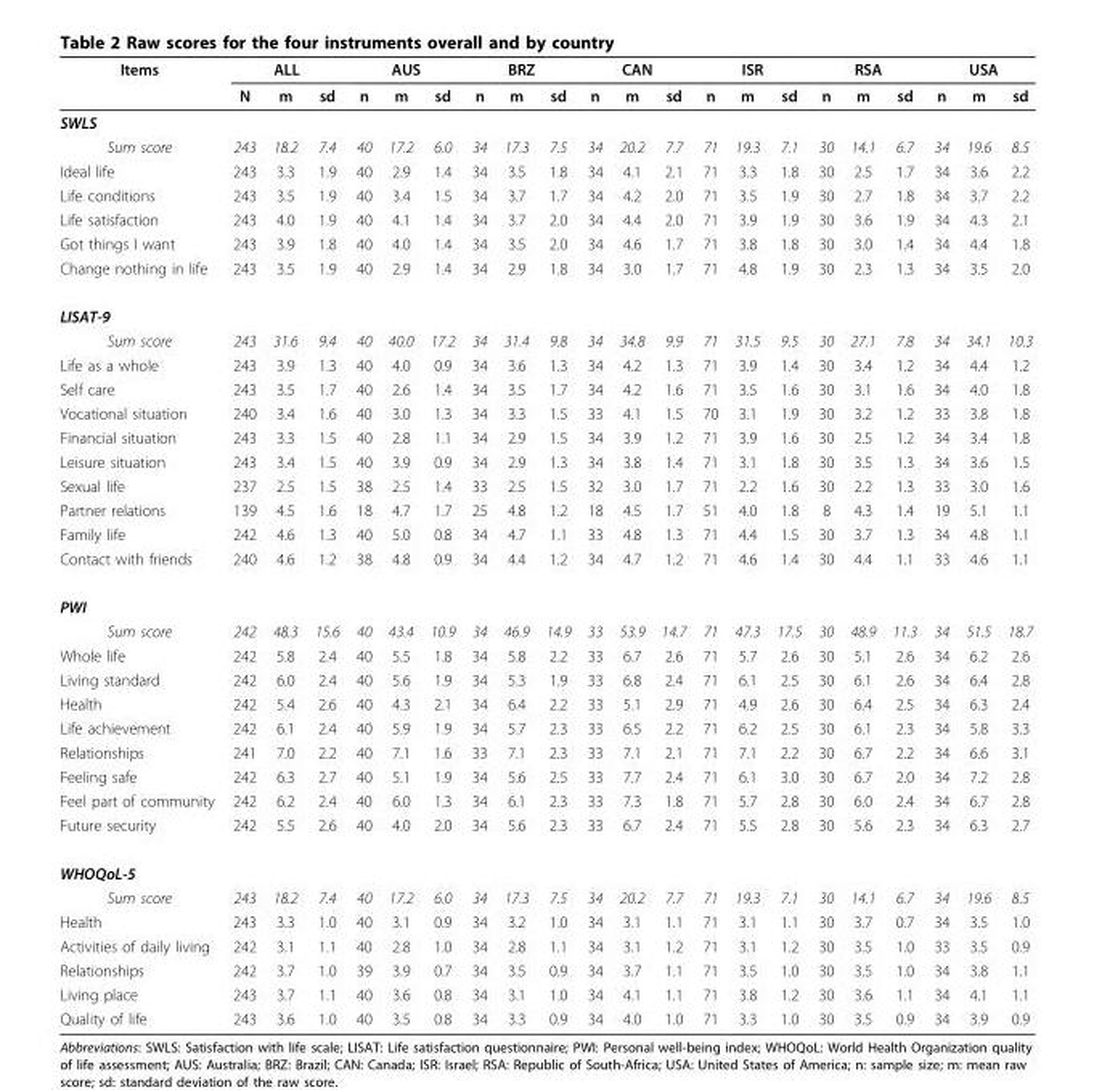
<table><thead><tr><td rowspan="2">Items</td><td colspan="3">ALL</td><td colspan="3">AUS</td><td colspan="3">BRZ</td><td colspan="3">CAN</td><td colspan="3">ISR</td><td colspan="3">RSA</td><td colspan="3">USA</td></tr><tr><td>N</td><td>m</td><td>sd</td><td>n</td><td>m</td><td>sd</td><td>n</td><td>m</td><td>sd</td><td>n</td><td>m</td><td>sd</td><td>n</td><td>m</td><td>sd</td><td>n</td><td>m</td><td>sd</td><td>n</td><td>m</td><td>sd</td></tr></thead><tbody><tr><td colspan="22">SWLS</td></tr><tr><td>Sum score</td><td>243</td><td>18.2</td><td>7.4</td><td>40</td><td>17.2</td><td>6.0</td><td>34</td><td>17.3</td><td>7.5</td><td>34</td><td>20.2</td><td>7.7</td><td>71</td><td>19.3</td><td>7.1</td><td>30</td><td>14.1</td><td>6.7</td><td>34</td><td>19.6</td><td>8.5</td></tr><tr><td>Ideal life</td><td>243</td><td>3.3</td><td>1.9</td><td>40</td><td>2.9</td><td>1.4</td><td>34</td><td>3.5</td><td>1.8</td><td>34</td><td>4.1</td><td>2.1</td><td>71</td><td>3.3</td><td>1.8</td><td>30</td><td>2.5</td><td>1.7</td><td>34</td><td>3.6</td><td>2.2</td></tr><tr><td>Life conditions</td><td>243</td><td>3.5</td><td>1.9</td><td>40</td><td>3.4</td><td>1.5</td><td>34</td><td>3.7</td><td>1.7</td><td>34</td><td>4.2</td><td>2.0</td><td>71</td><td>3.5</td><td>1.9</td><td>30</td><td>2.7</td><td>1.8</td><td>34</td><td>3.7</td><td>2.2</td></tr><tr><td>Life satisfaction</td><td>243</td><td>4.0</td><td>1.9</td><td>40</td><td>4.1</td><td>1.4</td><td>34</td><td>3.7</td><td>2.0</td><td>34</td><td>4.4</td><td>2.0</td><td>71</td><td>3.9</td><td>1.9</td><td>30</td><td>3.6</td><td>1.9</td><td>34</td><td>4.3</td><td>2.1</td></tr><tr><td>Got things I want</td><td>243</td><td>3.9</td><td>1.8</td><td>40</td><td>4.0</td><td>1.4</td><td>34</td><td>3.5</td><td>2.0</td><td>34</td><td>4.6</td><td>1.7</td><td>71</td><td>3.8</td><td>1.8</td><td>30</td><td>3.0</td><td>1.4</td><td>34</td><td>4.4</td><td>1.8</td></tr><tr><td>Change nothing in life</td><td>243</td><td>3.5</td><td>1.9</td><td>40</td><td>2.9</td><td>1.4</td><td>34</td><td>2.9</td><td>1.8</td><td>34</td><td>3.0</td><td>1.7</td><td>71</td><td>4.8</td><td>1.9</td><td>30</td><td>2.3</td><td>1.3</td><td>34</td><td>3.5</td><td>2.0</td></tr><tr><td colspan="22">LISAT-9</td></tr><tr><td>Sum score</td><td>243</td><td>31.6</td><td>9.4</td><td>40</td><td>40.0</td><td>17.2</td><td>34</td><td>31.4</td><td>9.8</td><td>34</td><td>34.8</td><td>9.9</td><td>71</td><td>31.5</td><td>9.5</td><td>30</td><td>27.1</td><td>7.8</td><td>34</td><td>34.1</td><td>10.3</td></tr><tr><td>Life as a whole</td><td>243</td><td>3.9</td><td>1.3</td><td>40</td><td>4.0</td><td>0.9</td><td>34</td><td>3.6</td><td>1.3</td><td>34</td><td>4.2</td><td>1.3</td><td>71</td><td>3.9</td><td>1.4</td><td>30</td><td>3.4</td><td>1.2</td><td>34</td><td>4.4</td><td>1.2</td></tr><tr><td>Self care</td><td>243</td><td>3.5</td><td>1.7</td><td>40</td><td>2.6</td><td>1.4</td><td>34</td><td>3.5</td><td>1.7</td><td>34</td><td>4.2</td><td>1.6</td><td>71</td><td>3.5</td><td>1.6</td><td>30</td><td>3.1</td><td>1.6</td><td>34</td><td>4.0</td><td>1.8</td></tr><tr><td>Vocational situation</td><td>240</td><td>3.4</td><td>1.6</td><td>40</td><td>3.0</td><td>1.3</td><td>34</td><td>3.3</td><td>1.5</td><td>33</td><td>4.1</td><td>1.5</td><td>70</td><td>3.1</td><td>1.9</td><td>30</td><td>3.2</td><td>1.2</td><td>33</td><td>3.8</td><td>1.8</td></tr><tr><td>Financial situation</td><td>243</td><td>3.3</td><td>1.5</td><td>40</td><td>2.8</td><td>1.1</td><td>34</td><td>2.9</td><td>1.5</td><td>34</td><td>3.9</td><td>1.2</td><td>71</td><td>3.9</td><td>1.6</td><td>30</td><td>2.5</td><td>1.2</td><td>34</td><td>3.4</td><td>1.8</td></tr><tr><td>Leisure situation</td><td>243</td><td>3.4</td><td>1.5</td><td>40</td><td>3.9</td><td>0.9</td><td>34</td><td>2.9</td><td>1.3</td><td>34</td><td>3.8</td><td>1.4</td><td>71</td><td>3.1</td><td>1.8</td><td>30</td><td>3.5</td><td>1.3</td><td>34</td><td>3.6</td><td>1.5</td></tr><tr><td>Sexual life</td><td>237</td><td>2.5</td><td>1.5</td><td>38</td><td>2.5</td><td>1.4</td><td>33</td><td>2.5</td><td>1.5</td><td>32</td><td>3.0</td><td>1.7</td><td>71</td><td>2.2</td><td>1.6</td><td>30</td><td>2.2</td><td>1.3</td><td>33</td><td>3.0</td><td>1.6</td></tr><tr><td>Partner relations</td><td>139</td><td>4.5</td><td>1.6</td><td>18</td><td>4.7</td><td>1.7</td><td>25</td><td>4.8</td><td>1.2</td><td>18</td><td>4.5</td><td>1.7</td><td>51</td><td>4.0</td><td>1.8</td><td>8</td><td>4.3</td><td>1.4</td><td>19</td><td>5.1</td><td>1.1</td></tr><tr><td>Family life</td><td>242</td><td>4.6</td><td>1.3</td><td>40</td><td>5.0</td><td>0.8</td><td>34</td><td>4.7</td><td>1.1</td><td>33</td><td>4.8</td><td>1.3</td><td>71</td><td>4.4</td><td>1.5</td><td>30</td><td>3.7</td><td>1.3</td><td>34</td><td>4.8</td><td>1.1</td></tr><tr><td>Contact with friends</td><td>240</td><td>4.6</td><td>1.2</td><td>38</td><td>4.8</td><td>0.9</td><td>34</td><td>4.4</td><td>1.2</td><td>34</td><td>4.7</td><td>1.2</td><td>71</td><td>4.6</td><td>1.4</td><td>30</td><td>4.4</td><td>1.1</td><td>33</td><td>4.6</td><td>1.1</td></tr><tr><td colspan="22">PWI</td></tr><tr><td>Sum score</td><td>242</td><td>48.3</td><td>15.6</td><td>40</td><td>43.4</td><td>10.9</td><td>34</td><td>46.9</td><td>14.9</td><td>33</td><td>53.9</td><td>14.7</td><td>71</td><td>47.3</td><td>17.5</td><td>30</td><td>48.9</td><td>11.3</td><td>34</td><td>51.5</td><td>18.7</td></tr><tr><td>Whole life</td><td>242</td><td>5.8</td><td>2.4</td><td>40</td><td>5.5</td><td>1.8</td><td>34</td><td>5.8</td><td>2.2</td><td>33</td><td>6.7</td><td>2.6</td><td>71</td><td>5.7</td><td>2.6</td><td>30</td><td>5.1</td><td>2.6</td><td>34</td><td>6.2</td><td>2.6</td></tr><tr><td>Living standard</td><td>242</td><td>6.0</td><td>2.4</td><td>40</td><td>5.6</td><td>1.9</td><td>34</td><td>5.3</td><td>1.9</td><td>33</td><td>6.8</td><td>2.4</td><td>71</td><td>6.1</td><td>2.5</td><td>30</td><td>6.1</td><td>2.6</td><td>34</td><td>6.4</td><td>2.8</td></tr><tr><td>Health</td><td>242</td><td>5.4</td><td>2.6</td><td>40</td><td>4.3</td><td>2.1</td><td>34</td><td>6.4</td><td>2.2</td><td>33</td><td>5.1</td><td>2.9</td><td>71</td><td>4.9</td><td>2.6</td><td>30</td><td>6.4</td><td>2.5</td><td>34</td><td>6.3</td><td>2.4</td></tr><tr><td>Life achievement</td><td>242</td><td>6.1</td><td>2.4</td><td>40</td><td>5.9</td><td>1.9</td><td>34</td><td>5.7</td><td>2.3</td><td>33</td><td>6.5</td><td>2.2</td><td>71</td><td>6.2</td><td>2.5</td><td>30</td><td>6.1</td><td>2.3</td><td>34</td><td>5.8</td><td>3.3</td></tr><tr><td>Relationships</td><td>241</td><td>7.0</td><td>2.2</td><td>40</td><td>7.1</td><td>1.6</td><td>33</td><td>7.1</td><td>2.3</td><td>33</td><td>7.1</td><td>2.1</td><td>71</td><td>7.1</td><td>2.2</td><td>30</td><td>6.7</td><td>2.2</td><td>34</td><td>6.6</td><td>3.1</td></tr><tr><td>Feeling safe</td><td>242</td><td>6.3</td><td>2.7</td><td>40</td><td>5.1</td><td>1.9</td><td>34</td><td>5.6</td><td>2.5</td><td>33</td><td>7.7</td><td>2.4</td><td>71</td><td>6.1</td><td>3.0</td><td>30</td><td>6.7</td><td>2.0</td><td>34</td><td>7.2</td><td>2.8</td></tr><tr><td>Feel part of community</td><td>242</td><td>6.2</td><td>2.4</td><td>40</td><td>6.0</td><td>1.3</td><td>34</td><td>6.1</td><td>2.3</td><td>33</td><td>7.3</td><td>1.8</td><td>71</td><td>5.7</td><td>2.8</td><td>30</td><td>6.0</td><td>2.4</td><td>34</td><td>6.7</td><td>2.8</td></tr><tr><td>Future security</td><td>242</td><td>5.5</td><td>2.6</td><td>40</td><td>4.0</td><td>2.0</td><td>34</td><td>5.6</td><td>2.3</td><td>33</td><td>6.7</td><td>2.4</td><td>71</td><td>5.5</td><td>2.8</td><td>30</td><td>5.6</td><td>2.3</td><td>34</td><td>6.3</td><td>2.7</td></tr><tr><td colspan="22">WHOQoL-5</td></tr><tr><td>Sum score</td><td>243</td><td>18.2</td><td>7.4</td><td>40</td><td>17.2</td><td>6.0</td><td>34</td><td>17.3</td><td>7.5</td><td>34</td><td>20.2</td><td>7.7</td><td>71</td><td>19.3</td><td>7.1</td><td>30</td><td>14.1</td><td>6.7</td><td>34</td><td>19.6</td><td>8.5</td></tr><tr><td>Health</td><td>243</td><td>3.3</td><td>1.0</td><td>40</td><td>3.1</td><td>0.9</td><td>34</td><td>3.2</td><td>1.0</td><td>34</td><td>3.1</td><td>1.1</td><td>71</td><td>3.1</td><td>1.1</td><td>30</td><td>3.7</td><td>0.7</td><td>34</td><td>3.5</td><td>1.0</td></tr><tr><td>Activities of daily living</td><td>242</td><td>3.1</td><td>1.1</td><td>40</td><td>2.8</td><td>1.0</td><td>34</td><td>2.8</td><td>1.1</td><td>34</td><td>3.1</td><td>1.2</td><td>71</td><td>3.1</td><td>1.2</td><td>30</td><td>3.5</td><td>1.0</td><td>33</td><td>3.5</td><td>0.9</td></tr><tr><td>Relationships</td><td>242</td><td>3.7</td><td>1.0</td><td>39</td><td>3.9</td><td>0.7</td><td>34</td><td>3.5</td><td>0.9</td><td>34</td><td>3.7</td><td>1.1</td><td>71</td><td>3.5</td><td>1.0</td><td>30</td><td>3.5</td><td>1.0</td><td>34</td><td>3.8</td><td>1.1</td></tr><tr><td>Living place</td><td>243</td><td>3.7</td><td>1.1</td><td>40</td><td>3.6</td><td>0.8</td><td>34</td><td>3.1</td><td>1.0</td><td>34</td><td>4.1</td><td>1.1</td><td>71</td><td>3.8</td><td>1.2</td><td>30</td><td>3.6</td><td>1.1</td><td>34</td><td>4.1</td><td>1.1</td></tr><tr><td>Quality of life</td><td>243</td><td>3.6</td><td>1.0</td><td>40</td><td>3.5</td><td>0.8</td><td>34</td><td>3.3</td><td>0.9</td><td>34</td><td>4.0</td><td>1.0</td><td>71</td><td>3.3</td><td>1.0</td><td>30</td><td>3.5</td><td>0.9</td><td>34</td><td>3.9</td><td>0.9</td></tr></tbody></table>